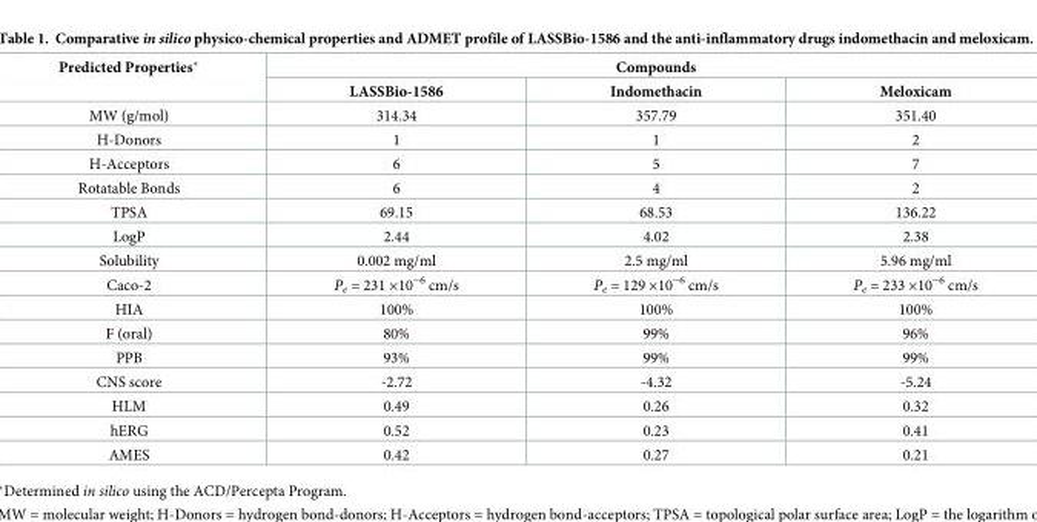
<table><thead><tr><td rowspan="2">Predicted Properties*</td><td colspan="3">Compounds</td></tr><tr><td>LASSBio-1586</td><td>Indomethacin</td><td>Meloxicam</td></tr></thead><tbody><tr><td>MW (g/mol)</td><td>314.34</td><td>357.79</td><td>351.40</td></tr><tr><td>H-Donors</td><td>1</td><td>1</td><td>2</td></tr><tr><td>H-Acceptors</td><td>6</td><td>5</td><td>7</td></tr><tr><td>Rotatable Bonds</td><td>6</td><td>4</td><td>2</td></tr><tr><td>TPSA</td><td>69.15</td><td>68.53</td><td>136.22</td></tr><tr><td>LogP</td><td>2.44</td><td>4.02</td><td>2.38</td></tr><tr><td>Solubility</td><td>0.002 mg/ml</td><td>2.5 mg/ml</td><td>5.96 mg/ml</td></tr><tr><td>Caco-2</td><td>P<sub>e</sub> = 231 ×10<sup>−6</sup> cm/s</td><td>P<sub>e</sub> = 129 ×10<sup>−6</sup> cm/s</td><td>P<sub>e</sub> = 233 ×10<sup>−6</sup> cm/s</td></tr><tr><td>HIA</td><td>100%</td><td>100%</td><td>100%</td></tr><tr><td>F (oral)</td><td>80%</td><td>99%</td><td>96%</td></tr><tr><td>PPB</td><td>93%</td><td>99%</td><td>99%</td></tr><tr><td>CNS score</td><td>-2.72</td><td>-4.32</td><td>-5.24</td></tr><tr><td>HLM</td><td>0.49</td><td>0.26</td><td>0.32</td></tr><tr><td>hERG</td><td>0.52</td><td>0.23</td><td>0.41</td></tr><tr><td>AMES</td><td>0.42</td><td>0.27</td><td>0.21</td></tr></tbody></table>